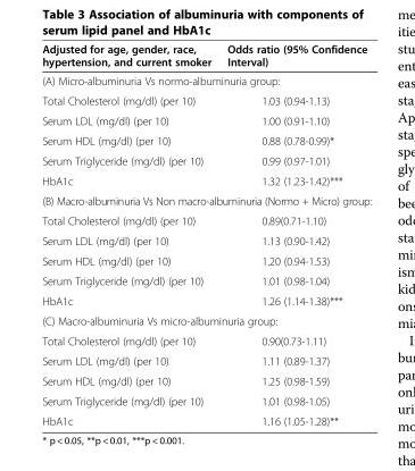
<table><thead><tr><td>Adjusted for age, gender, race, hypertension, and current smoker</td><td>Odds ratio (95% Confidence Interval)</td></tr></thead><tbody><tr><td colspan="2">(A) Micro-albuminuria Vs normo-albuminuria group:</td></tr><tr><td>Total Cholesterol (mg/dl) (per 10)</td><td>1.03 (0.94-1.13)</td></tr><tr><td>Serum LDL (mg/dl) (per 10)</td><td>1.00 (0.91-1.10)</td></tr><tr><td>Serum HDL (mg/dl) (per 10)</td><td>0.88 (0.78-0.99)*</td></tr><tr><td>Serum Triglyceride (mg/dl) (per 10)</td><td>0.99 (0.97-1.01)</td></tr><tr><td>HbA1c</td><td>1.32 (1.23-1.42)***</td></tr><tr><td colspan="2">(B) Macro-albuminuria Vs Non macro-albuminuria (Normo + Micro) group:</td></tr><tr><td>Total Cholesterol (mg/dl) (per 10)</td><td>0.89(0.71-1.10)</td></tr><tr><td>Serum LDL (mg/dl) (per 10)</td><td>1.13 (0.90-1.42)</td></tr><tr><td>Serum HDL (mg/dl) (per 10)</td><td>1.20 (0.94-1.53)</td></tr><tr><td>Serum Triglyceride (mg/dl) (per 10)</td><td>1.01 (0.98-1.04)</td></tr><tr><td>HbA1c</td><td>1.26 (1.14-1.38)***</td></tr><tr><td colspan="2">(C) Macro-albuminuria Vs micro-albuminuria group:</td></tr><tr><td>Total Cholesterol (mg/dl) (per 10)</td><td>0.90(0.73-1.11)</td></tr><tr><td>Serum LDL (mg/dl) (per 10)</td><td>1.11 (0.89-1.37)</td></tr><tr><td>Serum HDL (mg/dl) (per 10)</td><td>1.25 (0.98-1.59)</td></tr><tr><td>Serum Triglyceride (mg/dl) (per 10)</td><td>1.01 (0.98-1.05)</td></tr><tr><td>HbA1c</td><td>1.16 (1.05-1.28)**</td></tr></tbody></table>